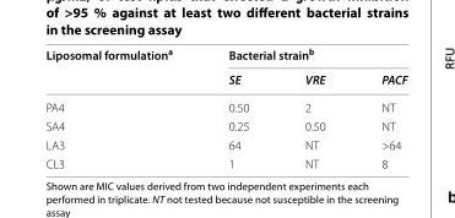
<table><thead><tr><td rowspan="2">Liposomal formulation<sup>a</sup></td><td colspan="3">Bacterial strain<sup>b</sup></td></tr><tr><td>SE</td><td>VRE</td><td>PACF</td></tr></thead><tbody><tr><td>PA4</td><td>0.50</td><td>2</td><td>NT</td></tr><tr><td>SA4</td><td>0.25</td><td>0.50</td><td>NT</td></tr><tr><td>LA3</td><td>64</td><td>NT</td><td>&gt;64</td></tr><tr><td>CL3</td><td>1</td><td>NT</td><td>8</td></tr></tbody></table>